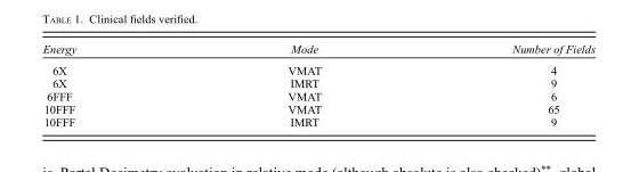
<table><thead><tr><td>Energy</td><td>Mode</td><td>Number of Fields</td></tr></thead><tbody><tr><td>6X</td><td>VMAT</td><td>4</td></tr><tr><td>6X</td><td>IMRT</td><td>9</td></tr><tr><td>6FFF</td><td>VMAT</td><td>6</td></tr><tr><td>10FFF</td><td>VMAT</td><td>65</td></tr><tr><td>10FFF</td><td>IMRT</td><td>9</td></tr></tbody></table>